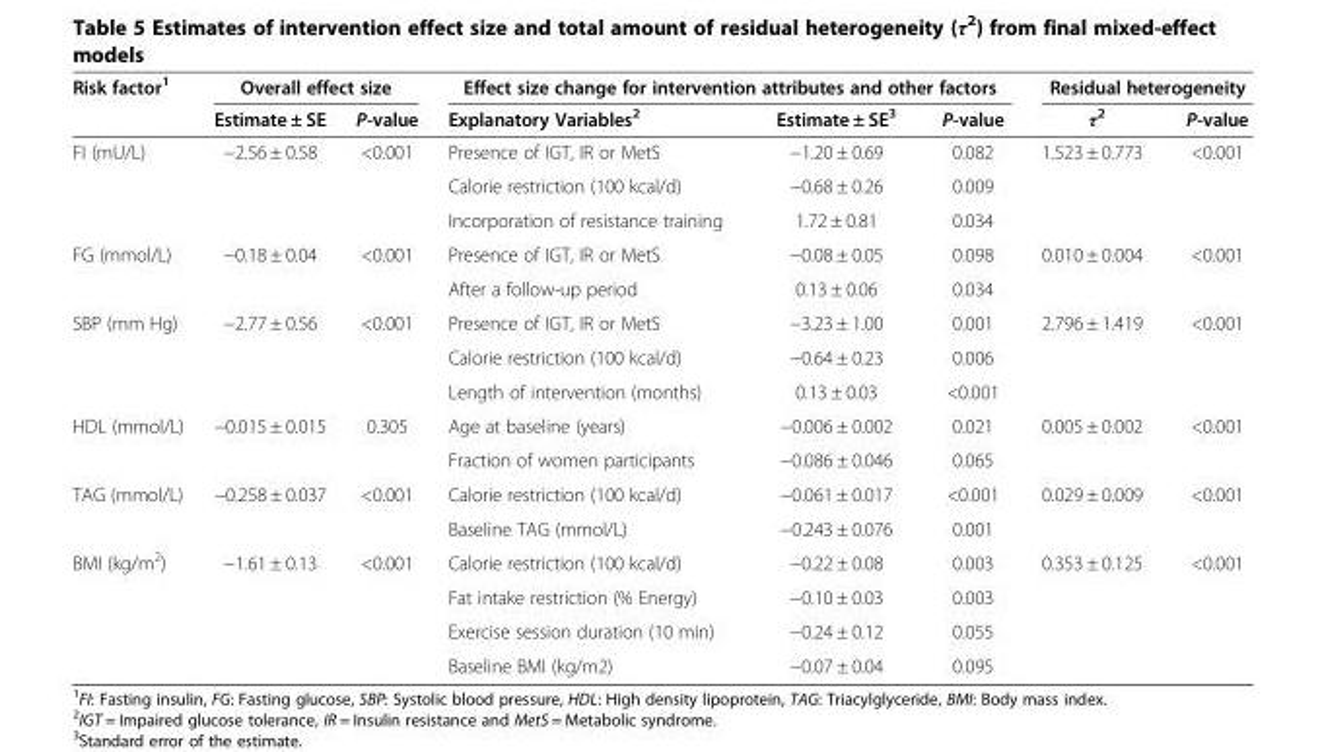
<table><thead><tr><td rowspan="2">Risk factor<sup>1</sup></td><td colspan="2">Overall effect size</td><td colspan="3">Effect size change for intervention attributes and other factors</td><td colspan="2">Residual heterogeneity</td></tr><tr><td>Estimate ± SE</td><td>P-value</td><td>Explanatory Variables<sup>2</sup></td><td>Estimate ± SE<sup>3</sup></td><td>P-value</td><td>τ<sup>2</sup></td><td>P-value</td></tr></thead><tbody><tr><td rowspan="3">FI (mU/L)</td><td>−2.56 ± 0.58</td><td>&lt;0.001</td><td>Presence of IGT, IR or MetS</td><td>−1.20 ± 0.69</td><td>0.082</td><td>1.523 ± 0.773</td><td>&lt;0.001</td></tr><tr><td></td><td></td><td>Calorie restriction (100 kcal/d)</td><td>−0.68 ± 0.26</td><td>0.009</td><td></td><td></td></tr><tr><td></td><td></td><td>Incorporation of resistance training</td><td>1.72 ± 0.81</td><td>0.034</td><td></td><td></td></tr><tr><td rowspan="2">FG (mmol/L)</td><td>−0.18 ± 0.04</td><td>&lt;0.001</td><td>Presence of IGT, IR or MetS</td><td>−0.08 ± 0.05</td><td>0.098</td><td>0.010 ± 0.004</td><td>&lt;0.001</td></tr><tr><td></td><td></td><td>After a follow-up period</td><td>0.13 ± 0.06</td><td>0.034</td><td></td><td></td></tr><tr><td rowspan="3">SBP (mm Hg)</td><td>−2.77 ± 0.56</td><td>&lt;0.001</td><td>Presence of IGT, IR or MetS</td><td>−3.23 ± 1.00</td><td>0.001</td><td>2.796 ± 1.419</td><td>&lt;0.001</td></tr><tr><td></td><td></td><td>Calorie restriction (100 kcal/d)</td><td>−0.64 ± 0.23</td><td>0.006</td><td></td><td></td></tr><tr><td></td><td></td><td>Length of intervention (months)</td><td>0.13 ± 0.03</td><td>&lt;0.001</td><td></td><td></td></tr><tr><td rowspan="2">HDL (mmol/L)</td><td>−0.015 ± 0.015</td><td>0.305</td><td>Age at baseline (years)</td><td>−0.006 ± 0.002</td><td>0.021</td><td>0.005 ± 0.002</td><td>&lt;0.001</td></tr><tr><td></td><td></td><td>Fraction of women participants</td><td>−0.086 ± 0.046</td><td>0.065</td><td></td><td></td></tr><tr><td rowspan="2">TAG (mmol/L)</td><td>−0.258 ± 0.037</td><td>&lt;0.001</td><td>Calorie restriction (100 kcal/d)</td><td>−0.061 ± 0.017</td><td>&lt;0.001</td><td>0.029 ± 0.009</td><td>&lt;0.001</td></tr><tr><td></td><td></td><td>Baseline TAG (mmol/L)</td><td>−0.243 ± 0.076</td><td>0.001</td><td></td><td></td></tr><tr><td rowspan="4">BMI (kg/m<sup>2</sup>)</td><td>−1.61 ± 0.13</td><td>&lt;0.001</td><td>Calorie restriction (100 kcal/d)</td><td>−0.22 ± 0.08</td><td>0.003</td><td>0.353 ± 0.125</td><td>&lt;0.001</td></tr><tr><td></td><td></td><td>Fat intake restriction (% Energy)</td><td>−0.10 ± 0.03</td><td>0.003</td><td></td><td></td></tr><tr><td></td><td></td><td>Exercise session duration (10 min)</td><td>−0.24 ± 0.12</td><td>0.055</td><td></td><td></td></tr><tr><td></td><td></td><td>Baseline BMI (kg/m2)</td><td>−0.07 ± 0.04</td><td>0.095</td><td></td><td></td></tr></tbody></table>